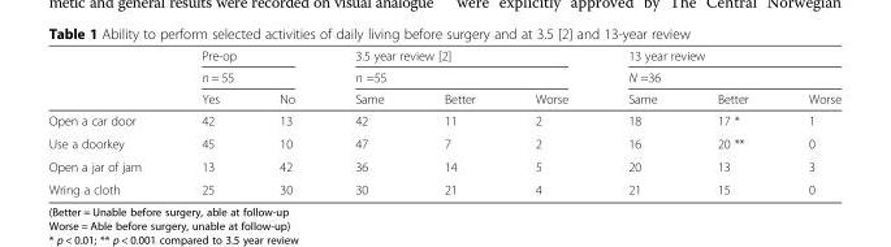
<table><thead><tr><td rowspan="3"></td><td rowspan="2" colspan="2">Pre-op n = 55</td><td rowspan="2" colspan="3">3.5 year review [2] n =55</td><td rowspan="2" colspan="3">13 year review N =36</td></tr><tr></tr><tr><td>Yes</td><td>No</td><td>Same</td><td>Better</td><td>Worse</td><td>Same</td><td>Better</td><td>Worse</td></tr></thead><tbody><tr><td>Open a car door</td><td>42</td><td>13</td><td>42</td><td>11</td><td>2</td><td>18</td><td>17 *</td><td>1</td></tr><tr><td>Use a doorkey</td><td>45</td><td>10</td><td>47</td><td>7</td><td>2</td><td>16</td><td>20 **</td><td>0</td></tr><tr><td>Open a jar of jam</td><td>13</td><td>42</td><td>36</td><td>14</td><td>5</td><td>20</td><td>13</td><td>3</td></tr><tr><td>Wring a cloth</td><td>25</td><td>30</td><td>30</td><td>21</td><td>4</td><td>21</td><td>15</td><td>0</td></tr></tbody></table>